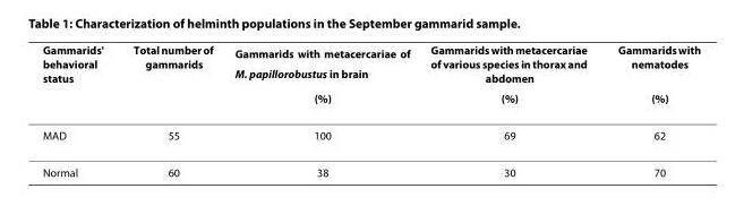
<table><thead><tr><td rowspan="2">Gammarids&#x27; behavioral status</td><td rowspan="2">Total number of gammarids</td><td rowspan="2">Gammarids with metacercariae of M. papillorobustus in brain (%)</td><td rowspan="2">Gammarids with metacercariae of various species in thorax and abdomen (%)</td><td rowspan="2">Gammarids with nematodes (%)</td></tr><tr></tr></thead><tbody><tr><td>MAD</td><td>55</td><td>100</td><td>69</td><td>62</td></tr><tr><td>Normal</td><td>60</td><td>38</td><td>30</td><td>70</td></tr></tbody></table>